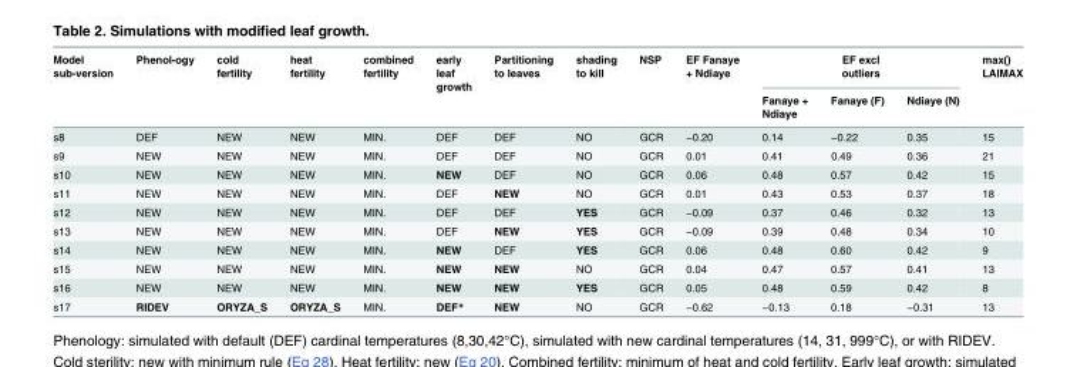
<table><thead><tr><td rowspan="2">Model sub-version</td><td rowspan="2">Phenol-ogy</td><td rowspan="2">cold fertility</td><td rowspan="2">heat fertility</td><td rowspan="2">combined fertility</td><td rowspan="2">early leaf growth</td><td rowspan="2">Partitioning to leaves</td><td rowspan="2">shading to kill</td><td rowspan="2">NSP</td><td rowspan="2">EF Fanaye + Ndiaye</td><td colspan="3">EF excl outliers</td><td rowspan="2">max() LAIMAX</td></tr><tr><td>Fanaye + Ndiaye</td><td>Fanaye (F)</td><td>Ndiaye (N)</td></tr></thead><tbody><tr><td>s8</td><td>DEF</td><td>NEW</td><td>NEW</td><td>MIN.</td><td>DEF</td><td>DEF</td><td>NO</td><td>GCR</td><td>−0.20</td><td>0.14</td><td>−0.22</td><td>0.35</td><td>15</td></tr><tr><td>s9</td><td>NEW</td><td>NEW</td><td>NEW</td><td>MIN.</td><td>DEF</td><td>DEF</td><td>NO</td><td>GCR</td><td>0.01</td><td>0.41</td><td>0.49</td><td>0.36</td><td>21</td></tr><tr><td>s10</td><td>NEW</td><td>NEW</td><td>NEW</td><td>MIN.</td><td>NEW</td><td>DEF</td><td>NO</td><td>GCR</td><td>0.06</td><td>0.48</td><td>0.57</td><td>0.42</td><td>15</td></tr><tr><td>s11</td><td>NEW</td><td>NEW</td><td>NEW</td><td>MIN.</td><td>DEF</td><td>NEW</td><td>NO</td><td>GCR</td><td>0.01</td><td>0.43</td><td>0.53</td><td>0.37</td><td>18</td></tr><tr><td>s12</td><td>NEW</td><td>NEW</td><td>NEW</td><td>MIN.</td><td>DEF</td><td>DEF</td><td>YES</td><td>GCR</td><td>−0.09</td><td>0.37</td><td>0.46</td><td>0.32</td><td>13</td></tr><tr><td>s13</td><td>NEW</td><td>NEW</td><td>NEW</td><td>MIN.</td><td>DEF</td><td>NEW</td><td>YES</td><td>GCR</td><td>−0.09</td><td>0.39</td><td>0.48</td><td>0.34</td><td>10</td></tr><tr><td>s14</td><td>NEW</td><td>NEW</td><td>NEW</td><td>MIN.</td><td>NEW</td><td>DEF</td><td>YES</td><td>GCR</td><td>0.06</td><td>0.48</td><td>0.60</td><td>0.42</td><td>9</td></tr><tr><td>s15</td><td>NEW</td><td>NEW</td><td>NEW</td><td>MIN.</td><td>NEW</td><td>NEW</td><td>NO</td><td>GCR</td><td>0.04</td><td>0.47</td><td>0.57</td><td>0.41</td><td>13</td></tr><tr><td>s16</td><td>NEW</td><td>NEW</td><td>NEW</td><td>MIN.</td><td>NEW</td><td>NEW</td><td>YES</td><td>GCR</td><td>0.05</td><td>0.48</td><td>0.59</td><td>0.42</td><td>8</td></tr><tr><td>s17</td><td>RIDEV</td><td>ORYZA_S</td><td>ORYZA_S</td><td>MIN.</td><td>DEF*</td><td>NEW</td><td>NO</td><td>GCR</td><td>−0.62</td><td>−0.13</td><td>0.18</td><td>−0.31</td><td>13</td></tr></tbody></table>